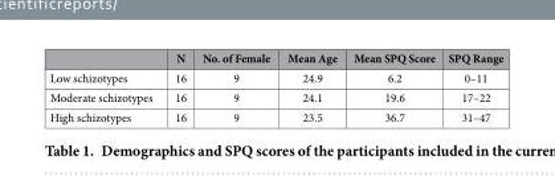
<table><thead><tr><td></td><td>N</td><td>No. of Female</td><td>Mean Age</td><td>Mean SPQ Score</td><td>SPQ Range</td></tr></thead><tbody><tr><td>Low schizotypes</td><td>16</td><td>9</td><td>24.9</td><td>6.2</td><td>0–11</td></tr><tr><td>Moderate schizotypes</td><td>16</td><td>9</td><td>24.1</td><td>19.6</td><td>17–22</td></tr><tr><td>High schizotypes</td><td>16</td><td>9</td><td>23.5</td><td>36.7</td><td>31–47</td></tr></tbody></table>